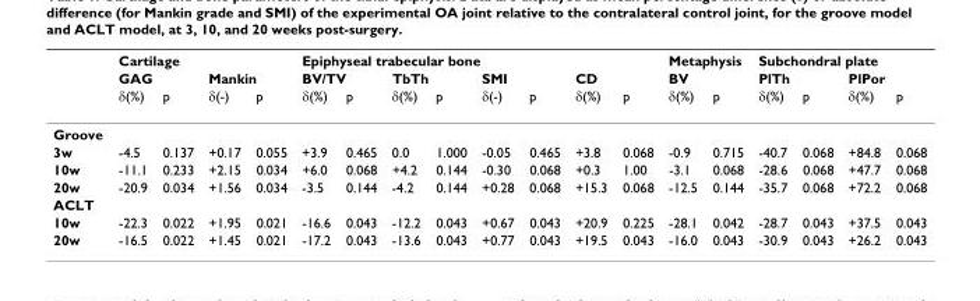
<table><thead><tr><td rowspan="3"></td><td colspan="4">Cartilage</td><td colspan="8">Epiphyseal trabecular bone</td><td rowspan="2" colspan="2">Metaphysis BV</td><td colspan="4">Subchondral plate</td></tr><tr><td colspan="2">GAG</td><td colspan="2">Mankin</td><td colspan="2">BV/TV</td><td colspan="2">TbTh</td><td colspan="2">SMI</td><td colspan="2">CD</td><td colspan="2">PlTh</td><td colspan="2">PlPor</td></tr><tr><td>δ(%)</td><td>p</td><td>δ(-)</td><td>p</td><td>δ(%)</td><td>p</td><td>δ(%)</td><td>p</td><td>δ(-)</td><td>p</td><td>δ(%)</td><td>p</td><td>δ(%)</td><td>p</td><td>δ(%)</td><td>p</td><td>δ(%)</td><td>p</td></tr></thead><tbody><tr><td colspan="19">Groove</td></tr><tr><td>3w</td><td>-4.5</td><td>0.137</td><td>+0.17</td><td>0.055</td><td>+3.9</td><td>0.465</td><td>0.0</td><td>1.000</td><td>-0.05</td><td>0.465</td><td>+3.8</td><td>0.068</td><td>-0.9</td><td>0.715</td><td>-40.7</td><td>0.068</td><td>+84.8</td><td>0.068</td></tr><tr><td>10w</td><td>-11.1</td><td>0.233</td><td>+2.15</td><td>0.034</td><td>+6.0</td><td>0.068</td><td>+4.2</td><td>0.144</td><td>-0.30</td><td>0.068</td><td>+0.3</td><td>1.00</td><td>-3.1</td><td>0.068</td><td>-28.6</td><td>0.068</td><td>+47.7</td><td>0.068</td></tr><tr><td>20w</td><td>-20.9</td><td>0.034</td><td>+1.56</td><td>0.034</td><td>-3.5</td><td>0.144</td><td>-4.2</td><td>0.144</td><td>+0.28</td><td>0.068</td><td>+15.3</td><td>0.068</td><td>-12.5</td><td>0.144</td><td>-35.7</td><td>0.068</td><td>+72.2</td><td>0.068</td></tr><tr><td colspan="19">ACLT</td></tr><tr><td>10w</td><td>-22.3</td><td>0.022</td><td>+1.95</td><td>0.021</td><td>-16.6</td><td>0.043</td><td>-12.2</td><td>0.043</td><td>+0.67</td><td>0.043</td><td>+20.9</td><td>0.225</td><td>-28.1</td><td>0.042</td><td>-28.7</td><td>0.043</td><td>+37.5</td><td>0.043</td></tr><tr><td>20w</td><td>-16.5</td><td>0.022</td><td>+1.45</td><td>0.021</td><td>-17.2</td><td>0.043</td><td>-13.6</td><td>0.043</td><td>+0.77</td><td>0.043</td><td>+19.5</td><td>0.043</td><td>-16.0</td><td>0.043</td><td>-30.9</td><td>0.043</td><td>+26.2</td><td>0.043</td></tr></tbody></table>